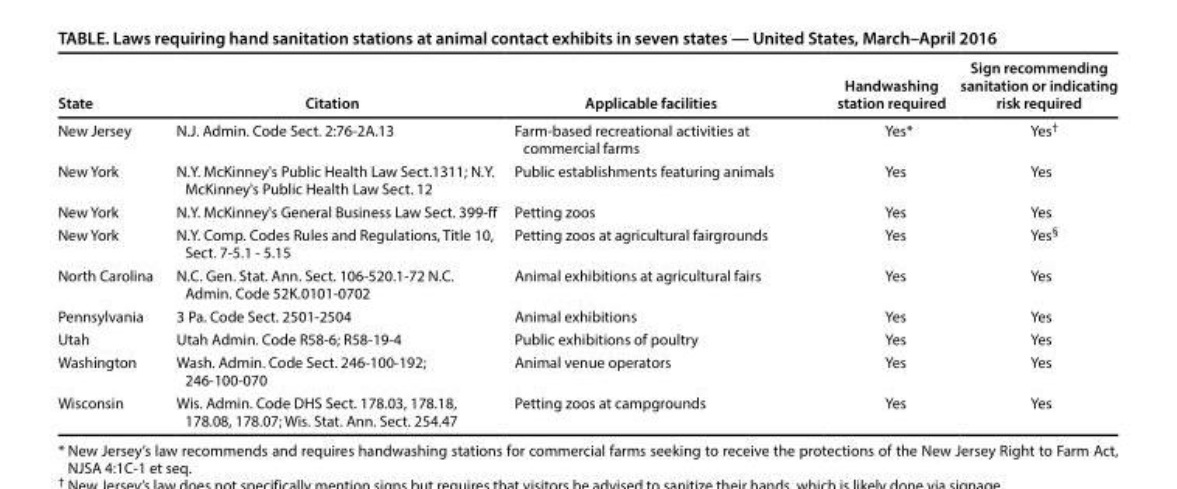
<table><thead><tr><td>State</td><td>Citation</td><td>Applicable facilities</td><td>Handwashing station required</td><td>Sign recommending sanitation or indicating risk required</td></tr></thead><tbody><tr><td>New Jersey</td><td>N.J. Admin. Code Sect. 2:76-2A.13</td><td>Farm-based recreational activities at commercial farms</td><td>Yes*</td><td>Yes<sup>†</sup></td></tr><tr><td>New York</td><td>N.Y. McKinney&#x27;s Public Health Law Sect.1311; N.Y. McKinney&#x27;s Public Health Law Sect. 12</td><td>Public establishments featuring animals</td><td>Yes</td><td>Yes</td></tr><tr><td>New York</td><td>N.Y. McKinney&#x27;s General Business Law Sect. 399-ff</td><td>Petting zoos</td><td>Yes</td><td>Yes</td></tr><tr><td>New York</td><td>N.Y. Comp. Codes Rules and Regulations, Title 10, Sect. 7-5.1 - 5.15</td><td>Petting zoos at agricultural fairgrounds</td><td>Yes</td><td>Yes<sup>§</sup></td></tr><tr><td>North Carolina</td><td>N.C. Gen. Stat. Ann. Sect. 106-520.1-72 N.C. Admin. Code 52K.0101-0702</td><td>Animal exhibitions at agricultural fairs</td><td>Yes</td><td>Yes</td></tr><tr><td>Pennsylvania</td><td>3 Pa. Code Sect. 2501-2504</td><td>Animal exhibitions</td><td>Yes</td><td>Yes</td></tr><tr><td>Utah</td><td>Utah Admin. Code R58-6; R58-19-4</td><td>Public exhibitions of poultry</td><td>Yes</td><td>Yes</td></tr><tr><td>Washington</td><td>Wash. Admin. Code Sect. 246-100-192; 246-100-070</td><td>Animal venue operators</td><td>Yes</td><td>Yes</td></tr><tr><td>Wisconsin</td><td>Wis. Admin. Code DHS Sect. 178.03, 178.18, 178.08, 178.07; Wis. Stat. Ann. Sect. 254.47</td><td>Petting zoos at campgrounds</td><td>Yes</td><td>Yes</td></tr></tbody></table>